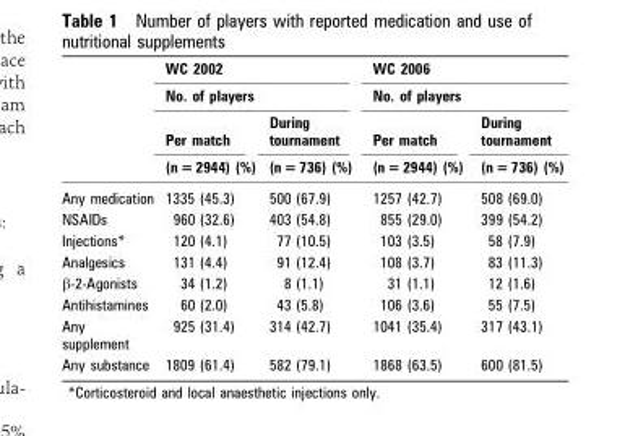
<table><thead><tr><td rowspan="4"></td><td rowspan="2" colspan="2">WC 2002 No. of players</td><td rowspan="2" colspan="2">WC 2006 No. of players</td></tr><tr></tr><tr><td rowspan="2">Per match (n = 2944) (%)</td><td rowspan="2">During tournament (n = 736) (%)</td><td rowspan="2">Per match (n = 2944) (%)</td><td rowspan="2">During tournament (n = 736) (%)</td></tr><tr></tr></thead><tbody><tr><td>Any medication</td><td>1335 (45.3)</td><td>500 (67.9)</td><td>1257 (42.7)</td><td>508 (69.0)</td></tr><tr><td>NSAIDs</td><td>960 (32.6)</td><td>403 (54.8)</td><td>855 (29.0)</td><td>399 (54.2)</td></tr><tr><td>Injections*</td><td>120 (4.1)</td><td>77 (10.5)</td><td>103 (3.5)</td><td>58 (7.9)</td></tr><tr><td>Analgesics</td><td>131 (4.4)</td><td>91 (12.4)</td><td>108 (3.7)</td><td>83 (11.3)</td></tr><tr><td>β-2-Agonists</td><td>34 (1.2)</td><td>8 (1.1)</td><td>31 (1.1)</td><td>12 (1.6)</td></tr><tr><td>Antihistamines</td><td>60 (2.0)</td><td>43 (5.8)</td><td>106 (3.6)</td><td>55 (7.5)</td></tr><tr><td>Any supplement</td><td>925 (31.4)</td><td>314 (42.7)</td><td>1041 (35.4)</td><td>317 (43.1)</td></tr><tr><td>Any substance</td><td>1809 (61.4)</td><td>582 (79.1)</td><td>1868 (63.5)</td><td>600 (81.5)</td></tr></tbody></table>